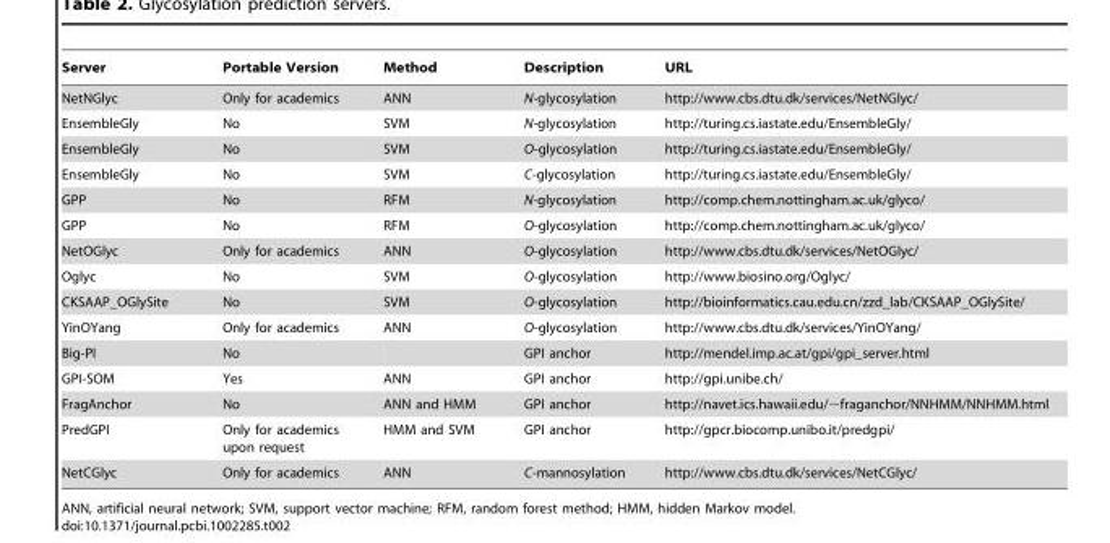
<table><thead><tr><td>Server</td><td>Portable Version</td><td>Method</td><td>Description</td><td>URL</td></tr></thead><tbody><tr><td>NetNGlyc</td><td>Only for academics</td><td>ANN</td><td>N-glycosylation</td><td>http://www.cbs.dtu.dk/services/NetNGlyc/</td></tr><tr><td>EnsembleGly</td><td>No</td><td>SVM</td><td>N-glycosylation</td><td>http://turing.cs.iastate.edu/EnsembleGly/</td></tr><tr><td>EnsembleGly</td><td>No</td><td>SVM</td><td>O-glycosylation</td><td>http://turing.cs.iastate.edu/EnsembleGly/</td></tr><tr><td>EnsembleGly</td><td>No</td><td>SVM</td><td>C-glycosylation</td><td>http://turing.cs.iastate.edu/EnsembleGly/</td></tr><tr><td>GPP</td><td>No</td><td>RFM</td><td>N-glycosylation</td><td>http://comp.chem.nottingham.ac.uk/glyco/</td></tr><tr><td>GPP</td><td>No</td><td>RFM</td><td>O-glycosylation</td><td>http://comp.chem.nottingham.ac.uk/glyco/</td></tr><tr><td>NetOGlyc</td><td>Only for academics</td><td>ANN</td><td>O-glycosylation</td><td>http://www.cbs.dtu.dk/services/NetOGlyc/</td></tr><tr><td>Oglyc</td><td>No</td><td>SVM</td><td>O-glycosylation</td><td>http://www.biosino.org/Oglyc/</td></tr><tr><td>CKSAAP_OGlySite</td><td>No</td><td>SVM</td><td>O-glycosylation</td><td>http://bioinformatics.cau.edu.cn/zzd_lab/CKSAAP_OGlySite/</td></tr><tr><td>YinOYang</td><td>Only for academics</td><td>ANN</td><td>O-glycosylation</td><td>http://www.cbs.dtu.dk/services/YinOYang/</td></tr><tr><td>Big-PI</td><td>No</td><td></td><td>GPI anchor</td><td>http://mendel.imp.ac.at/gpi/gpi_server.html</td></tr><tr><td>GPI-SOM</td><td>Yes</td><td>ANN</td><td>GPI anchor</td><td>http://gpi.unibe.ch/</td></tr><tr><td>FragAnchor</td><td>No</td><td>ANN and HMM</td><td>GPI anchor</td><td>http://navet.ics.hawaii.edu/~fraganchor/NNHMM/NNHMM.html</td></tr><tr><td>PredGPI</td><td>Only for academics upon request</td><td>HMM and SVM</td><td>GPI anchor</td><td>http://gpcr.biocomp.unibo.it/predgpi/</td></tr><tr><td>NetCGlyc</td><td>Only for academics</td><td>ANN</td><td>C-mannosylation</td><td>http://www.cbs.dtu.dk/services/NetCGlyc/</td></tr></tbody></table>